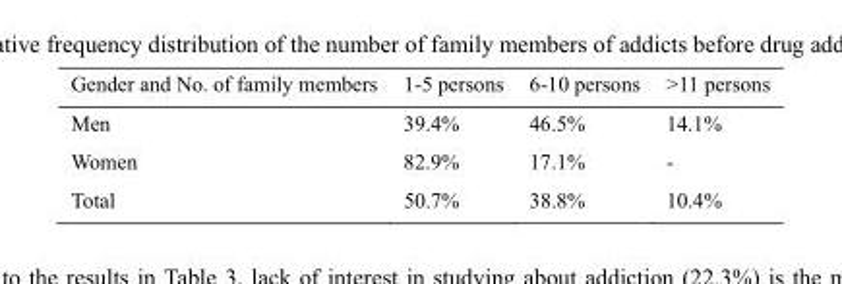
<table><thead><tr><td>Gender and No. of family members</td><td>1-5 persons</td><td>6-10 persons</td><td>&gt;11 persons</td></tr></thead><tbody><tr><td>Men</td><td>39.4%</td><td>46.5%</td><td>14.1%</td></tr><tr><td>Women</td><td>82.9%</td><td>17.1%</td><td>-</td></tr><tr><td>Total</td><td>50.7%</td><td>38.8%</td><td>10.4%</td></tr></tbody></table>